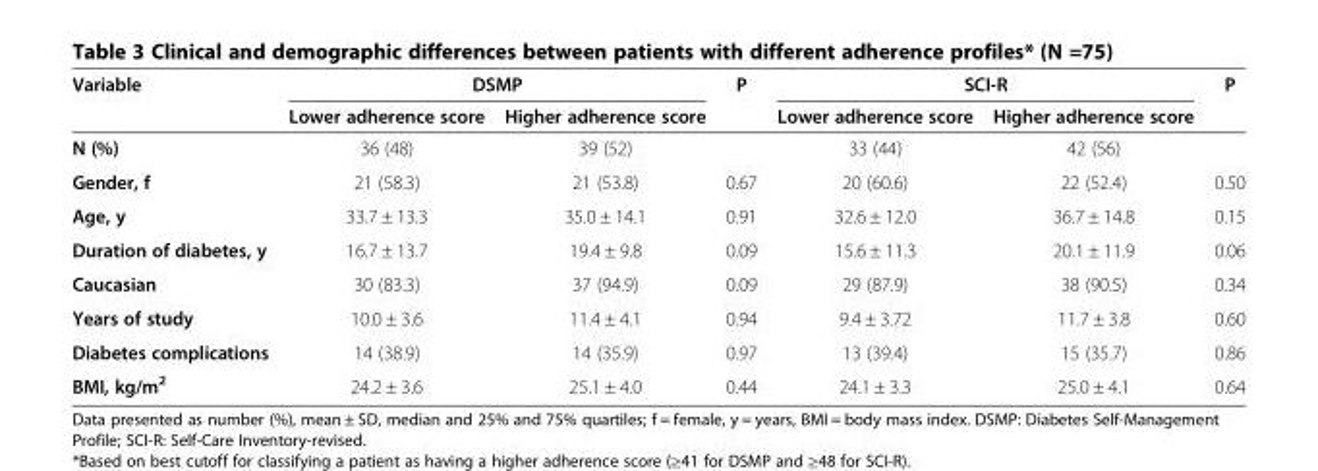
<table><thead><tr><td rowspan="2">Variable</td><td colspan="2">DSMP</td><td rowspan="2">P</td><td colspan="2">SCI-R</td><td rowspan="2">P</td></tr><tr><td>Lower adherence score</td><td>Higher adherence score</td><td>Lower adherence score</td><td>Higher adherence score</td></tr></thead><tbody><tr><td>N (%)</td><td>36 (48)</td><td>39 (52)</td><td></td><td>33 (44)</td><td>42 (56)</td><td></td></tr><tr><td>Gender, f</td><td>21 (58.3)</td><td>21 (53.8)</td><td>0.67</td><td>20 (60.6)</td><td>22 (52.4)</td><td>0.50</td></tr><tr><td>Age, y</td><td>33.7 ± 13.3</td><td>35.0 ± 14.1</td><td>0.91</td><td>32.6 ± 12.0</td><td>36.7 ± 14.8</td><td>0.15</td></tr><tr><td>Duration of diabetes, y</td><td>16.7 ± 13.7</td><td>19.4 ± 9.8</td><td>0.09</td><td>15.6 ± 11.3</td><td>20.1 ± 11.9</td><td>0.06</td></tr><tr><td>Caucasian</td><td>30 (83.3)</td><td>37 (94.9)</td><td>0.09</td><td>29 (87.9)</td><td>38 (90.5)</td><td>0.34</td></tr><tr><td>Years of study</td><td>10.0 ± 3.6</td><td>11.4 ± 4.1</td><td>0.94</td><td>9.4 ± 3.72</td><td>11.7 ± 3.8</td><td>0.60</td></tr><tr><td>Diabetes complications</td><td>14 (38.9)</td><td>14 (35.9)</td><td>0.97</td><td>13 (39.4)</td><td>15 (35.7)</td><td>0.86</td></tr><tr><td>BMI, kg/m<sup>2</sup></td><td>24.2 ± 3.6</td><td>25.1 ± 4.0</td><td>0.44</td><td>24.1 ± 3.3</td><td>25.0 ± 4.1</td><td>0.64</td></tr></tbody></table>